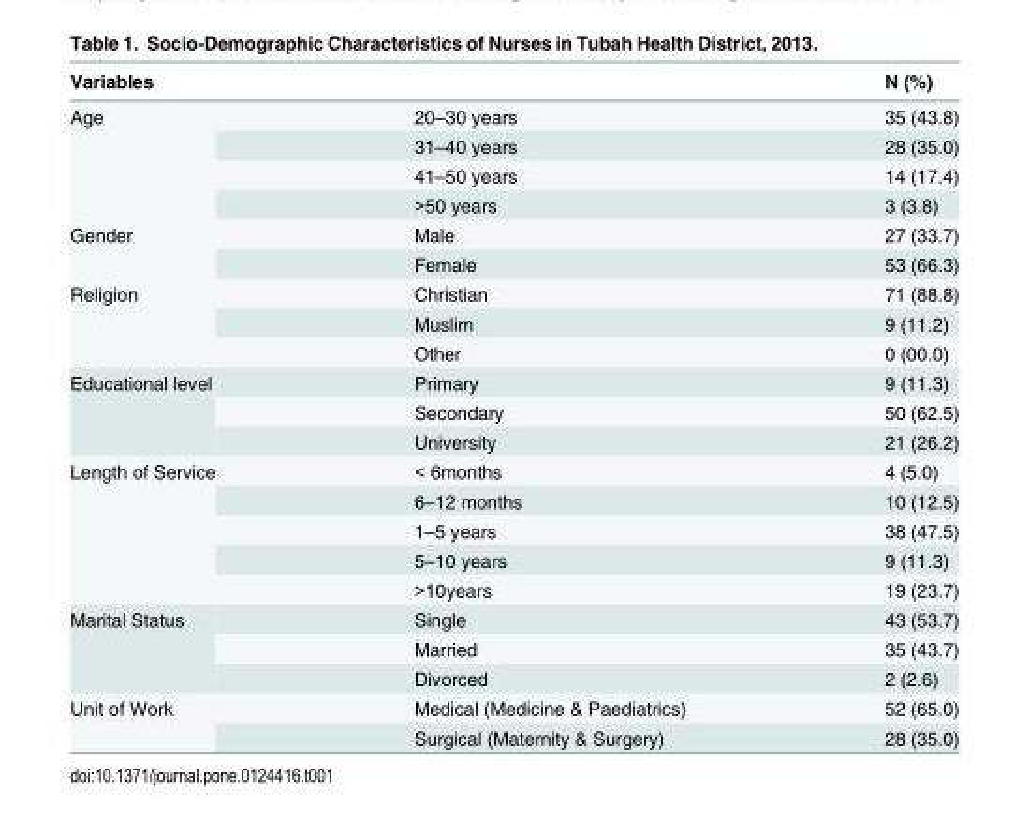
<table><thead><tr><td>Variables</td><td></td><td>N (%)</td></tr></thead><tbody><tr><td rowspan="4">Age</td><td>20–30 years</td><td>35 (43.8)</td></tr><tr><td>31–40 years</td><td>28 (35.0)</td></tr><tr><td>41–50 years</td><td>14 (17.4)</td></tr><tr><td>&gt;50 years</td><td>3 (3.8)</td></tr><tr><td rowspan="2">Gender</td><td>Male</td><td>27 (33.7)</td></tr><tr><td>Female</td><td>53 (66.3)</td></tr><tr><td rowspan="3">Religion</td><td>Christian</td><td>71 (88.8)</td></tr><tr><td>Muslim</td><td>9 (11.2)</td></tr><tr><td>Other</td><td>0 (00.0)</td></tr><tr><td rowspan="3">Educational level</td><td>Primary</td><td>9 (11.3)</td></tr><tr><td>Secondary</td><td>50 (62.5)</td></tr><tr><td>University</td><td>21 (26.2)</td></tr><tr><td rowspan="5">Length of Service</td><td>&lt; 6months</td><td>4 (5.0)</td></tr><tr><td>6–12 months</td><td>10 (12.5)</td></tr><tr><td>1–5 years</td><td>38 (47.5)</td></tr><tr><td>5–10 years</td><td>9 (11.3)</td></tr><tr><td>&gt;10years</td><td>19 (23.7)</td></tr><tr><td rowspan="3">Marital Status</td><td>Single</td><td>43 (53.7)</td></tr><tr><td>Married</td><td>35 (43.7)</td></tr><tr><td>Divorced</td><td>2 (2.6)</td></tr><tr><td rowspan="2">Unit of Work</td><td>Medical (Medicine &amp; Paediatrics)</td><td>52 (65.0)</td></tr><tr><td>Surgical (Maternity &amp; Surgery)</td><td>28 (35.0)</td></tr></tbody></table>